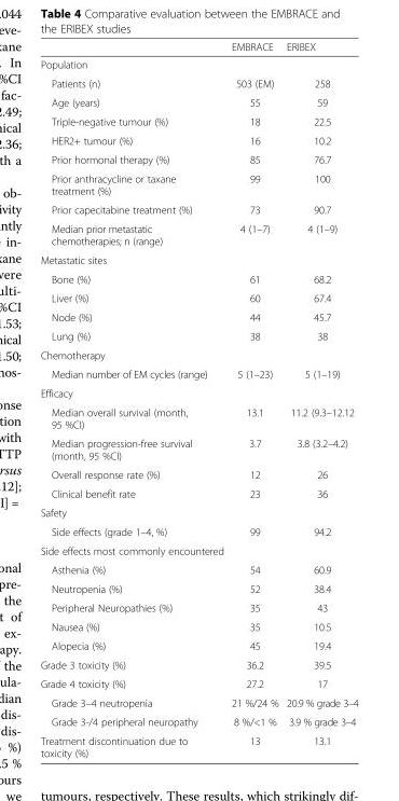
<table><thead><tr><td></td><td>EMBRACE</td><td>ERIBEX</td></tr></thead><tbody><tr><td colspan="3">Population</td></tr><tr><td>Patients (n)</td><td>503 (EM)</td><td>258</td></tr><tr><td>Age (years)</td><td>55</td><td>59</td></tr><tr><td>Triple-negative tumour (%)</td><td>18</td><td>22.5</td></tr><tr><td>HER2+ tumour (%)</td><td>16</td><td>10.2</td></tr><tr><td>Prior hormonal therapy (%)</td><td>85</td><td>76.7</td></tr><tr><td>Prior anthracycline or taxane treatment (%)</td><td>99</td><td>100</td></tr><tr><td>Prior capecitabine treatment (%)</td><td>73</td><td>90.7</td></tr><tr><td>Median prior metastatic chemotherapies; n (range)</td><td>4 (1–7)</td><td>4 (1–9)</td></tr><tr><td colspan="3">Metastatic sites</td></tr><tr><td>Bone (%)</td><td>61</td><td>68.2</td></tr><tr><td>Liver (%)</td><td>60</td><td>67.4</td></tr><tr><td>Node (%)</td><td>44</td><td>45.7</td></tr><tr><td>Lung (%)</td><td>38</td><td>38</td></tr><tr><td colspan="3">Chemotherapy</td></tr><tr><td>Median number of EM cycles (range)</td><td>5 (1–23)</td><td>5 (1–19)</td></tr><tr><td colspan="3">Efficacy</td></tr><tr><td>Median overall survival (month, 95 %CI)</td><td>13.1</td><td>11.2 (9.3–12.12</td></tr><tr><td>Median progression-free survival (month, 95 %CI)</td><td>3.7</td><td>3.8 (3.2–4.2)</td></tr><tr><td>Overall response rate (%)</td><td>12</td><td>26</td></tr><tr><td>Clinical benefit rate</td><td>23</td><td>36</td></tr><tr><td colspan="3">Safety</td></tr><tr><td>Side effects (grade 1–4, %)</td><td>99</td><td>94.2</td></tr><tr><td colspan="3">Side effects most commonly encountered</td></tr><tr><td>Asthenia (%)</td><td>54</td><td>60.9</td></tr><tr><td>Neutropenia (%)</td><td>52</td><td>38.4</td></tr><tr><td>Peripheral Neuropathies (%)</td><td>35</td><td>43</td></tr><tr><td>Nausea (%)</td><td>35</td><td>10.5</td></tr><tr><td>Alopecia (%)</td><td>45</td><td>19.4</td></tr><tr><td>Grade 3 toxicity (%)</td><td>36.2</td><td>39.5</td></tr><tr><td>Grade 4 toxicity (%)</td><td>27.2</td><td>17</td></tr><tr><td>Grade 3–4 neutropenia</td><td>21 %/24 %</td><td>20.9 % grade 3–4</td></tr><tr><td>Grade 3-/4 peripheral neuropathy</td><td>8 %/&lt;1 %</td><td>3.9 % grade 3–4</td></tr><tr><td>Treatment discontinuation due to toxicity (%)</td><td>13</td><td>13.1</td></tr></tbody></table>